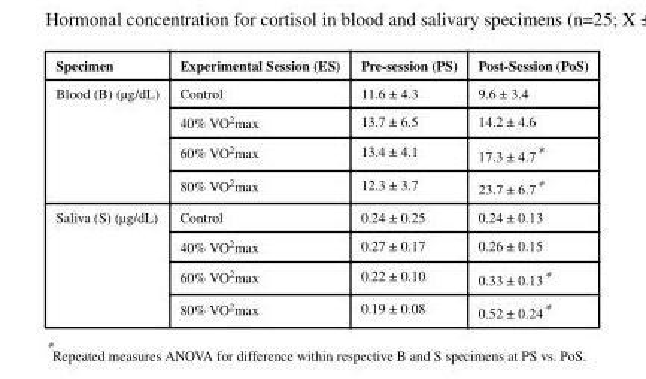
<table><thead><tr><td>Specimen</td><td>Experimental Session (ES)</td><td>Pre-session (PS)</td><td>Post-Session (PoS)</td></tr></thead><tbody><tr><td rowspan="4">Blood (B) (μg/dL)</td><td>Control</td><td>11.6 ± 4.3</td><td>9.6 ± 3.4</td></tr><tr><td>40% VO<sup>2</sup>max</td><td>13.7 ± 6.5</td><td>14.2 ± 4.6</td></tr><tr><td>60% VO<sup>2</sup>max</td><td>13.4 ± 4.1</td><td>17.3 ± 4.7*</td></tr><tr><td>80% VO<sup>2</sup>max</td><td>12.3 ± 3.7</td><td>23.7 ± 6.7*</td></tr><tr><td rowspan="4">Saliva (S) (μg/dL)</td><td>Control</td><td>0.24 ± 0.25</td><td>0.24 ± 0.13</td></tr><tr><td>40% VO<sup>2</sup>max</td><td>0.27 ± 0.17</td><td>0.26 ± 0.15</td></tr><tr><td>60% VO<sup>2</sup>max</td><td>0.22 ± 0.10</td><td>0.33 ± 0.13*</td></tr><tr><td>80% VO<sup>2</sup>max</td><td>0.19 ± 0.08</td><td>0.52 ± 0.24*</td></tr></tbody></table>